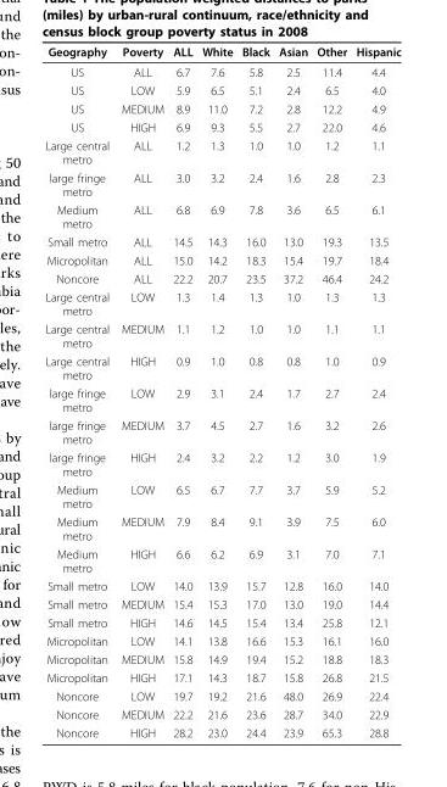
<table><thead><tr><td>Geography</td><td>Poverty</td><td>ALL</td><td>White</td><td>Black</td><td>Asian</td><td>Other</td><td>Hispanic</td></tr></thead><tbody><tr><td>US</td><td>ALL</td><td>6.7</td><td>7.6</td><td>5.8</td><td>2.5</td><td>11.4</td><td>4.4</td></tr><tr><td>US</td><td>LOW</td><td>5.9</td><td>6.5</td><td>5.1</td><td>2.4</td><td>6.5</td><td>4.0</td></tr><tr><td>US</td><td>MEDIUM</td><td>8.9</td><td>11.0</td><td>7.2</td><td>2.8</td><td>12.2</td><td>4.9</td></tr><tr><td>US</td><td>HIGH</td><td>6.9</td><td>9.3</td><td>5.5</td><td>2.7</td><td>22.0</td><td>4.6</td></tr><tr><td>Large central metro</td><td>ALL</td><td>1.2</td><td>1.3</td><td>1.0</td><td>1.0</td><td>1.2</td><td>1.1</td></tr><tr><td>large fringe metro</td><td>ALL</td><td>3.0</td><td>3.2</td><td>2.4</td><td>1.6</td><td>2.8</td><td>2.3</td></tr><tr><td>Medium metro</td><td>ALL</td><td>6.8</td><td>6.9</td><td>7.8</td><td>3.6</td><td>6.5</td><td>6.1</td></tr><tr><td>Small metro</td><td>ALL</td><td>14.5</td><td>14.3</td><td>16.0</td><td>13.0</td><td>19.3</td><td>13.5</td></tr><tr><td>Micropolitan</td><td>ALL</td><td>15.0</td><td>14.2</td><td>18.3</td><td>15.4</td><td>19.7</td><td>18.4</td></tr><tr><td>Noncore</td><td>ALL</td><td>22.2</td><td>20.7</td><td>23.5</td><td>37.2</td><td>46.4</td><td>24.2</td></tr><tr><td>Large central metro</td><td>LOW</td><td>1.3</td><td>1.4</td><td>1.3</td><td>1.0</td><td>1.3</td><td>1.3</td></tr><tr><td>Large central metro</td><td>MEDIUM</td><td>1.1</td><td>1.2</td><td>1.0</td><td>1.0</td><td>1.1</td><td>1.1</td></tr><tr><td>Large central metro</td><td>HIGH</td><td>0.9</td><td>1.0</td><td>0.8</td><td>0.8</td><td>1.0</td><td>0.9</td></tr><tr><td>large fringe metro</td><td>LOW</td><td>2.9</td><td>3.1</td><td>2.4</td><td>1.7</td><td>2.7</td><td>2.4</td></tr><tr><td>large fringe metro</td><td>MEDIUM</td><td>3.7</td><td>4.5</td><td>2.7</td><td>1.6</td><td>3.2</td><td>2.6</td></tr><tr><td>large fringe metro</td><td>HIGH</td><td>2.4</td><td>3.2</td><td>2.2</td><td>1.2</td><td>3.0</td><td>1.9</td></tr><tr><td>Medium metro</td><td>LOW</td><td>6.5</td><td>6.7</td><td>7.7</td><td>3.7</td><td>5.9</td><td>5.2</td></tr><tr><td>Medium metro</td><td>MEDIUM</td><td>7.9</td><td>8.4</td><td>9.1</td><td>3.9</td><td>7.5</td><td>6.0</td></tr><tr><td>Medium metro</td><td>HIGH</td><td>6.6</td><td>6.2</td><td>6.9</td><td>3.1</td><td>7.0</td><td>7.1</td></tr><tr><td>Small metro</td><td>LOW</td><td>14.0</td><td>13.9</td><td>15.7</td><td>12.8</td><td>16.0</td><td>14.0</td></tr><tr><td>Small metro</td><td>MEDIUM</td><td>15.4</td><td>15.3</td><td>17.0</td><td>13.0</td><td>19.0</td><td>14.4</td></tr><tr><td>Small metro</td><td>HIGH</td><td>14.6</td><td>14.5</td><td>15.4</td><td>13.4</td><td>25.8</td><td>12.1</td></tr><tr><td>Micropolitan</td><td>LOW</td><td>14.1</td><td>13.8</td><td>16.6</td><td>15.3</td><td>16.1</td><td>16.0</td></tr><tr><td>Micropolitan</td><td>MEDIUM</td><td>15.8</td><td>14.9</td><td>19.4</td><td>15.2</td><td>18.8</td><td>18.3</td></tr><tr><td>Micropolitan</td><td>HIGH</td><td>17.1</td><td>14.3</td><td>18.7</td><td>15.8</td><td>26.8</td><td>21.5</td></tr><tr><td>Noncore</td><td>LOW</td><td>19.7</td><td>19.2</td><td>21.6</td><td>48.0</td><td>26.9</td><td>22.4</td></tr><tr><td>Noncore</td><td>MEDIUM</td><td>22.2</td><td>21.6</td><td>23.6</td><td>28.7</td><td>34.0</td><td>22.9</td></tr><tr><td>Noncore</td><td>HIGH</td><td>28.2</td><td>23.0</td><td>24.4</td><td>23.9</td><td>65.3</td><td>28.8</td></tr></tbody></table>